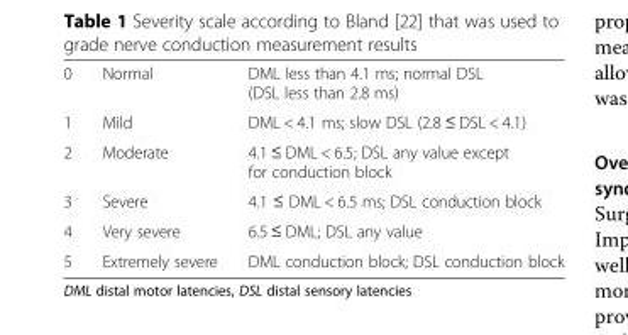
<table><tbody><tr><td>0</td><td>Normal</td><td>DML less than 4.1 ms; normal DSL (DSL less than 2.8 ms)</td></tr><tr><td>1</td><td>Mild</td><td>DML &lt; 4.1 ms; slow DSL (2.8 ≤ DSL &lt; 4.1)</td></tr><tr><td>2</td><td>Moderate</td><td>4.1 ≤ DML &lt; 6.5; DSL any value except for conduction block</td></tr><tr><td>3</td><td>Severe</td><td>4.1 ≤ DML &lt; 6.5 ms; DSL conduction block</td></tr><tr><td>4</td><td>Very severe</td><td>6.5 ≤ DML; DSL any value</td></tr><tr><td>5</td><td>Extremely severe</td><td>DML conduction block; DSL conduction block</td></tr></tbody></table>